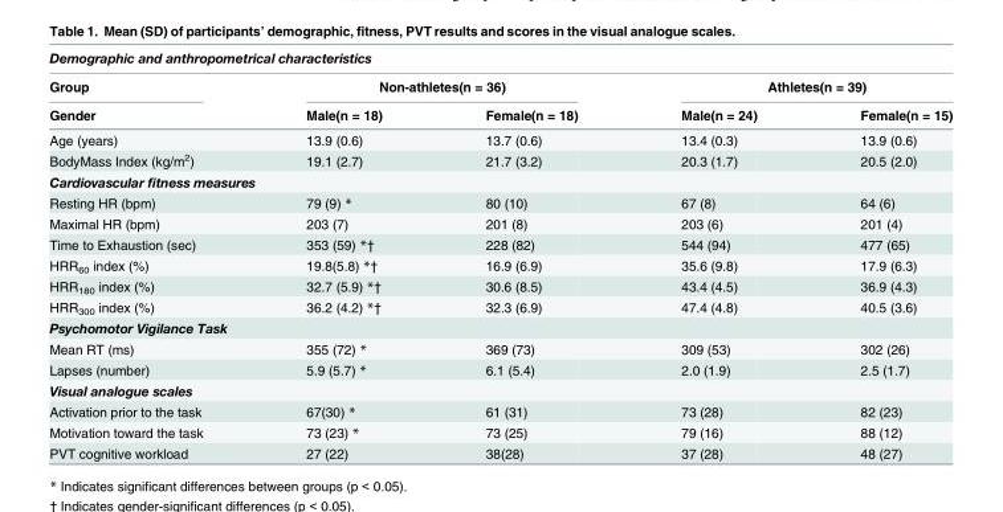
<table><thead><tr><td colspan="5">Demographic and anthropometrical characteristics</td></tr><tr><td rowspan="2">Group Gender</td><td colspan="2">Non-athletes(n = 36)</td><td colspan="2">Athletes(n = 39)</td></tr><tr><td>Male(n = 18)</td><td>Female(n = 18)</td><td>Male(n = 24)</td><td>Female(n = 15)</td></tr></thead><tbody><tr><td>Age (years)</td><td>13.9 (0.6)</td><td>13.7 (0.6)</td><td>13.4 (0.3)</td><td>13.9 (0.6)</td></tr><tr><td>BodyMass Index (kg/m<sup>2</sup>)</td><td>19.1 (2.7)</td><td>21.7 (3.2)</td><td>20.3 (1.7)</td><td>20.5 (2.0)</td></tr><tr><td colspan="5">Cardiovascular fitness measures</td></tr><tr><td>Resting HR (bpm)</td><td>79 (9) *</td><td>80 (10)</td><td>67 (8)</td><td>64 (6)</td></tr><tr><td>Maximal HR (bpm)</td><td>203 (7)</td><td>201 (8)</td><td>203 (6)</td><td>201 (4)</td></tr><tr><td>Time to Exhaustion (sec)</td><td>353 (59) *†</td><td>228 (82)</td><td>544 (94)</td><td>477 (65)</td></tr><tr><td>HRR<sub>60</sub> index (%)</td><td>19.8(5.8) *†</td><td>16.9 (6.9)</td><td>35.6 (9.8)</td><td>17.9 (6.3)</td></tr><tr><td>HRR<sub>180</sub> index (%)</td><td>32.7 (5.9) *†</td><td>30.6 (8.5)</td><td>43.4 (4.5)</td><td>36.9 (4.3)</td></tr><tr><td>HRR<sub>300</sub> index (%)</td><td>36.2 (4.2) *†</td><td>32.3 (6.9)</td><td>47.4 (4.8)</td><td>40.5 (3.6)</td></tr><tr><td colspan="5">Psychomotor Vigilance Task</td></tr><tr><td>Mean RT (ms)</td><td>355 (72) *</td><td>369 (73)</td><td>309 (53)</td><td>302 (26)</td></tr><tr><td>Lapses (number)</td><td>5.9 (5.7) *</td><td>6.1 (5.4)</td><td>2.0 (1.9)</td><td>2.5 (1.7)</td></tr><tr><td colspan="5">Visual analogue scales</td></tr><tr><td>Activation prior to the task</td><td>67(30) *</td><td>61 (31)</td><td>73 (28)</td><td>82 (23)</td></tr><tr><td>Motivation toward the task</td><td>73 (23) *</td><td>73 (25)</td><td>79 (16)</td><td>88 (12)</td></tr><tr><td>PVT cognitive workload</td><td>27 (22)</td><td>38(28)</td><td>37 (28)</td><td>48 (27)</td></tr></tbody></table>